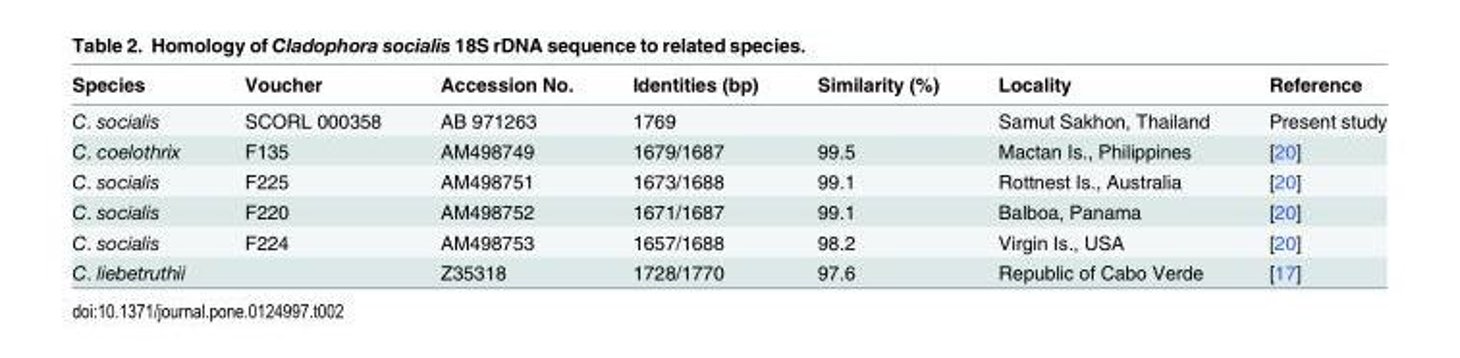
<table><thead><tr><td>Species</td><td>Voucher</td><td>Accession No.</td><td>Identities (bp)</td><td>Similarity (%)</td><td>Locality</td><td>Reference</td></tr></thead><tbody><tr><td>C. socialis</td><td>SCORL 000358</td><td>AB 971263</td><td>1769</td><td></td><td>Samut Sakhon, Thailand</td><td>Present study</td></tr><tr><td>C. coelothrix</td><td>F135</td><td>AM498749</td><td>1679/1687</td><td>99.5</td><td>Mactan Is., Philippines</td><td>[20]</td></tr><tr><td>C. socialis</td><td>F225</td><td>AM498751</td><td>1673/1688</td><td>99.1</td><td>Rottnest Is., Australia</td><td>[20]</td></tr><tr><td>C. socialis</td><td>F220</td><td>AM498752</td><td>1671/1687</td><td>99.1</td><td>Balboa, Panama</td><td>[20]</td></tr><tr><td>C. socialis</td><td>F224</td><td>AM498753</td><td>1657/1688</td><td>98.2</td><td>Virgin Is., USA</td><td>[20]</td></tr><tr><td>C. liebetruthii</td><td></td><td>Z35318</td><td>1728/1770</td><td>97.6</td><td>Republic of Cabo Verde</td><td>[17]</td></tr></tbody></table>